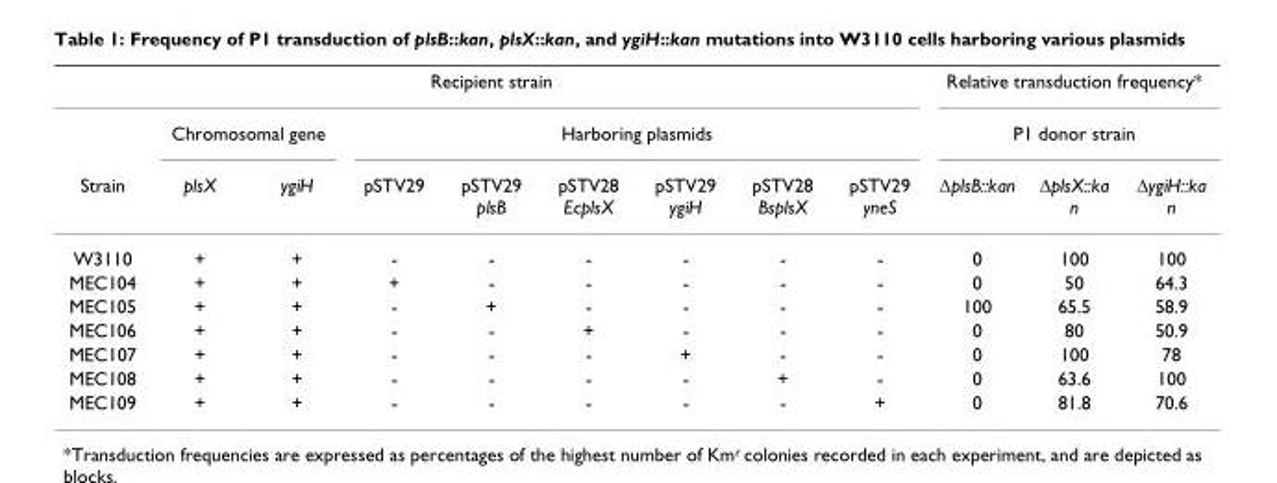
<table><thead><tr><td colspan="9">Recipient strain</td><td rowspan="2" colspan="3">Relative transduction frequency* P1 donor strain</td></tr><tr><td rowspan="2">Strain</td><td colspan="2">Chromosomal gene</td><td colspan="6">Harboring plasmids</td></tr><tr><td>plsX</td><td>ygiH</td><td>pSTV29</td><td>pSTV29 plsB</td><td>pSTV28 EcplsX</td><td>pSTV29 ygiH</td><td>pSTV28 BsplsX</td><td>pSTV29 yneS</td><td>ΔplsB::kan</td><td>ΔplsX::ka n</td><td>ΔygiH::ka n</td></tr></thead><tbody><tr><td>W3110</td><td>+</td><td>+</td><td>-</td><td>-</td><td>-</td><td>-</td><td>-</td><td>-</td><td>0</td><td>100</td><td>100</td></tr><tr><td>MEC104</td><td>+</td><td>+</td><td>+</td><td>-</td><td>-</td><td>-</td><td>-</td><td>-</td><td>0</td><td>50</td><td>64.3</td></tr><tr><td>MEC105</td><td>+</td><td>+</td><td>-</td><td>+</td><td>-</td><td>-</td><td>-</td><td>-</td><td>100</td><td>65.5</td><td>58.9</td></tr><tr><td>MEC106</td><td>+</td><td>+</td><td>-</td><td>-</td><td>+</td><td>-</td><td>-</td><td>-</td><td>0</td><td>80</td><td>50.9</td></tr><tr><td>MEC107</td><td>+</td><td>+</td><td>-</td><td>-</td><td>-</td><td>+</td><td>-</td><td>-</td><td>0</td><td>100</td><td>78</td></tr><tr><td>MEC108</td><td>+</td><td>+</td><td>-</td><td>-</td><td>-</td><td>-</td><td>+</td><td>-</td><td>0</td><td>63.6</td><td>100</td></tr><tr><td>MEC109</td><td>+</td><td>+</td><td>-</td><td>-</td><td>-</td><td>-</td><td>-</td><td>+</td><td>0</td><td>81.8</td><td>70.6</td></tr></tbody></table>